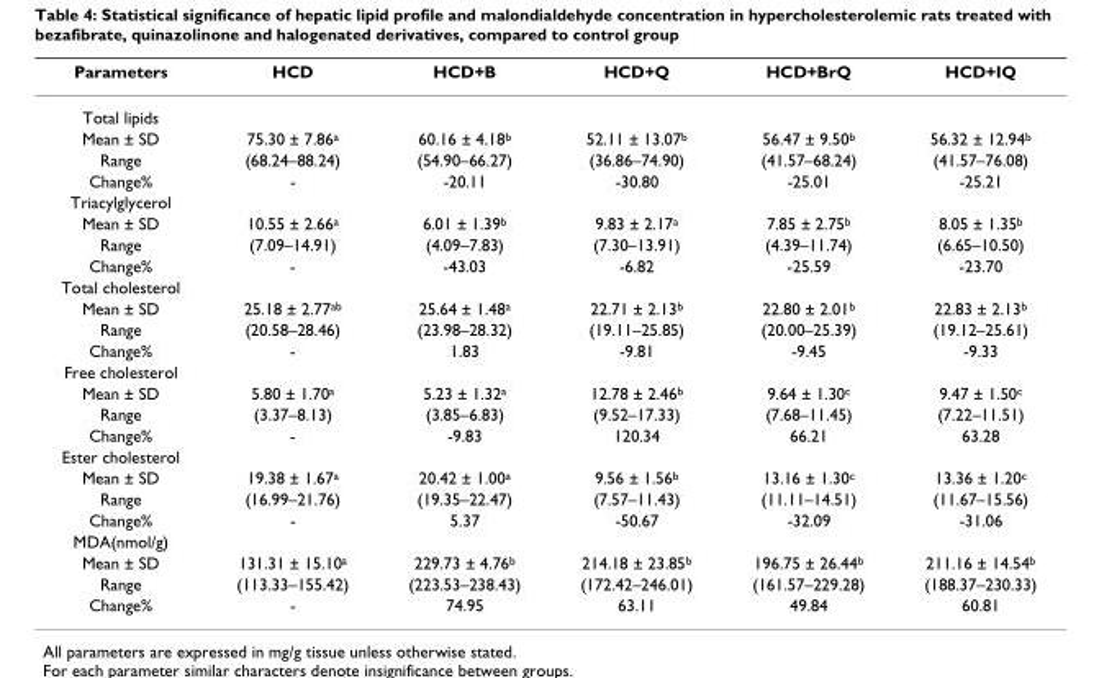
<table><thead><tr><td>Parameters</td><td>HCD</td><td>HCD+B</td><td>HCD+Q</td><td>HCD+BrQ</td><td>HCD+IQ</td></tr></thead><tbody><tr><td colspan="6">Total lipids</td></tr><tr><td>Mean ± SD</td><td>75.30 ± 7.86<sup>a</sup></td><td>60.16 ± 4.18<sup>b</sup></td><td>52.11 ± 13.07<sup>b</sup></td><td>56.47 ± 9.50<sup>b</sup></td><td>56.32 ± 12.94<sup>b</sup></td></tr><tr><td>Range</td><td>(68.24–88.24)</td><td>(54.90–66.27)</td><td>(36.86–74.90)</td><td>(41.57–68.24)</td><td>(41.57–76.08)</td></tr><tr><td>Change%</td><td>-</td><td>-20.11</td><td>-30.80</td><td>-25.01</td><td>-25.21</td></tr><tr><td colspan="6">Triacylglycerol</td></tr><tr><td>Mean ± SD</td><td>10.55 ± 2.66<sup>a</sup></td><td>6.01 ± 1.39<sup>b</sup></td><td>9.83 ± 2.17<sup>a</sup></td><td>7.85 ± 2.75<sup>b</sup></td><td>8.05 ± 1.35<sup>b</sup></td></tr><tr><td>Range</td><td>(7.09–14.91)</td><td>(4.09–7.83)</td><td>(7.30–13.91)</td><td>(4.39–11.74)</td><td>(6.65–10.50)</td></tr><tr><td>Change%</td><td>-</td><td>-43.03</td><td>-6.82</td><td>-25.59</td><td>-23.70</td></tr><tr><td colspan="6">Total cholesterol</td></tr><tr><td>Mean ± SD</td><td>25.18 ± 2.77<sup>ab</sup></td><td>25.64 ± 1.48<sup>a</sup></td><td>22.71 ± 2.13<sup>b</sup></td><td>22.80 ± 2.01<sup>b</sup></td><td>22.83 ± 2.13<sup>b</sup></td></tr><tr><td>Range</td><td>(20.58–28.46)</td><td>(23.98–28.32)</td><td>(19.11–25.85)</td><td>(20.00–25.39)</td><td>(19.12–25.61)</td></tr><tr><td>Change%</td><td>-</td><td>1.83</td><td>-9.81</td><td>-9.45</td><td>-9.33</td></tr><tr><td colspan="6">Free cholesterol</td></tr><tr><td>Mean ± SD</td><td>5.80 ± 1.70<sup>a</sup></td><td>5.23 ± 1.32<sup>a</sup></td><td>12.78 ± 2.46<sup>b</sup></td><td>9.64 ± 1.30<sup>c</sup></td><td>9.47 ± 1.50<sup>c</sup></td></tr><tr><td>Range</td><td>(3.37–8.13)</td><td>(3.85–6.83)</td><td>(9.52–17.33)</td><td>(7.68–11.45)</td><td>(7.22–11.51)</td></tr><tr><td>Change%</td><td>-</td><td>-9.83</td><td>120.34</td><td>66.21</td><td>63.28</td></tr><tr><td colspan="6">Ester cholesterol</td></tr><tr><td>Mean ± SD</td><td>19.38 ± 1.67<sup>a</sup></td><td>20.42 ± 1.00<sup>a</sup></td><td>9.56 ± 1.56<sup>b</sup></td><td>13.16 ± 1.30<sup>c</sup></td><td>13.36 ± 1.20<sup>c</sup></td></tr><tr><td>Range</td><td>(16.99–21.76)</td><td>(19.35–22.47)</td><td>(7.57–11.43)</td><td>(11.11–14.51)</td><td>(11.67–15.56)</td></tr><tr><td>Change%</td><td>-</td><td>5.37</td><td>-50.67</td><td>-32.09</td><td>-31.06</td></tr><tr><td colspan="6">MDA(nmol/g)</td></tr><tr><td>Mean ± SD</td><td>131.31 ± 15.10<sup>a</sup></td><td>229.73 ± 4.76<sup>b</sup></td><td>214.18 ± 23.85<sup>b</sup></td><td>196.75 ± 26.44<sup>b</sup></td><td>211.16 ± 14.54<sup>b</sup></td></tr><tr><td>Range</td><td>(113.33–155.42)</td><td>(223.53–238.43)</td><td>(172.42–246.01)</td><td>(161.57–229.28)</td><td>(188.37–230.33)</td></tr><tr><td>Change%</td><td>-</td><td>74.95</td><td>63.11</td><td>49.84</td><td>60.81</td></tr></tbody></table>